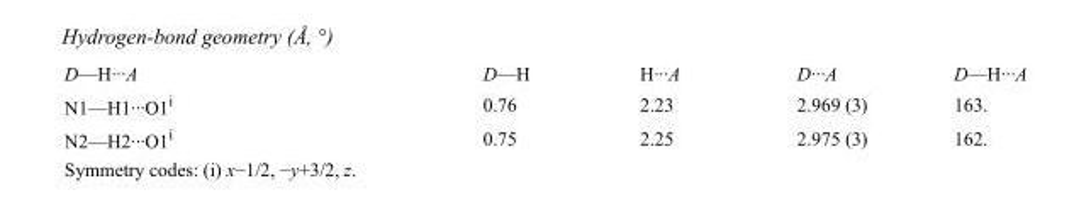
<table><tbody><tr><td>D—H···A</td><td>D—H</td><td>H···A</td><td>D···A</td><td>D—H···A</td></tr><tr><td>N1—H1···O1<sup>i</sup></td><td>0.76</td><td>2.23</td><td>2.969 (3)</td><td>163.</td></tr><tr><td>N2—H2···O1<sup>i</sup></td><td>0.75</td><td>2.25</td><td>2.975 (3)</td><td>162.</td></tr></tbody></table>